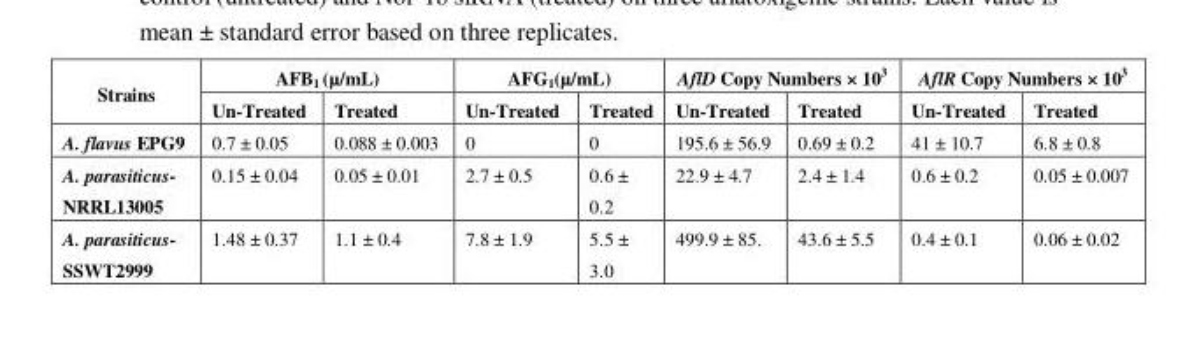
<table><thead><tr><td rowspan="2">Strains</td><td colspan="2">AFB<sub>1</sub> (µ/mL)</td><td colspan="2">AFG<sub>1</sub>(µ/mL)</td><td colspan="2">AflD Copy Numbers × 10<sup>3</sup></td><td colspan="2">AflR Copy Numbers × 10<sup>3</sup></td></tr><tr><td>Un-Treated</td><td>Treated</td><td>Un-Treated</td><td>Treated</td><td>Un-Treated</td><td>Treated</td><td>Un-Treated</td><td>Treated</td></tr></thead><tbody><tr><td>A. flavus EPG9</td><td>0.7 ± 0.05</td><td>0.088 ± 0.003</td><td>0</td><td>0</td><td>195.6 ± 56.9</td><td>0.69 ± 0.2</td><td>41 ± 10.7</td><td>6.8 ± 0.8</td></tr><tr><td>A. parasiticus- NRRL13005</td><td>0.15 ± 0.04</td><td>0.05 ± 0.01</td><td>2.7 ± 0.5</td><td>0.6 ± 0.2</td><td>22.9 ± 4.7</td><td>2.4 ± 1.4</td><td>0.6 ± 0.2</td><td>0.05 ± 0.007</td></tr><tr><td>A. parasiticus- SSWT2999</td><td>1.48 ± 0.37</td><td>1.1 ± 0.4</td><td>7.8 ± 1.9</td><td>5.5 ± 3.0</td><td>499.9 ± 85.</td><td>43.6 ± 5.5</td><td>0.4 ± 0.1</td><td>0.06 ± 0.02</td></tr></tbody></table>